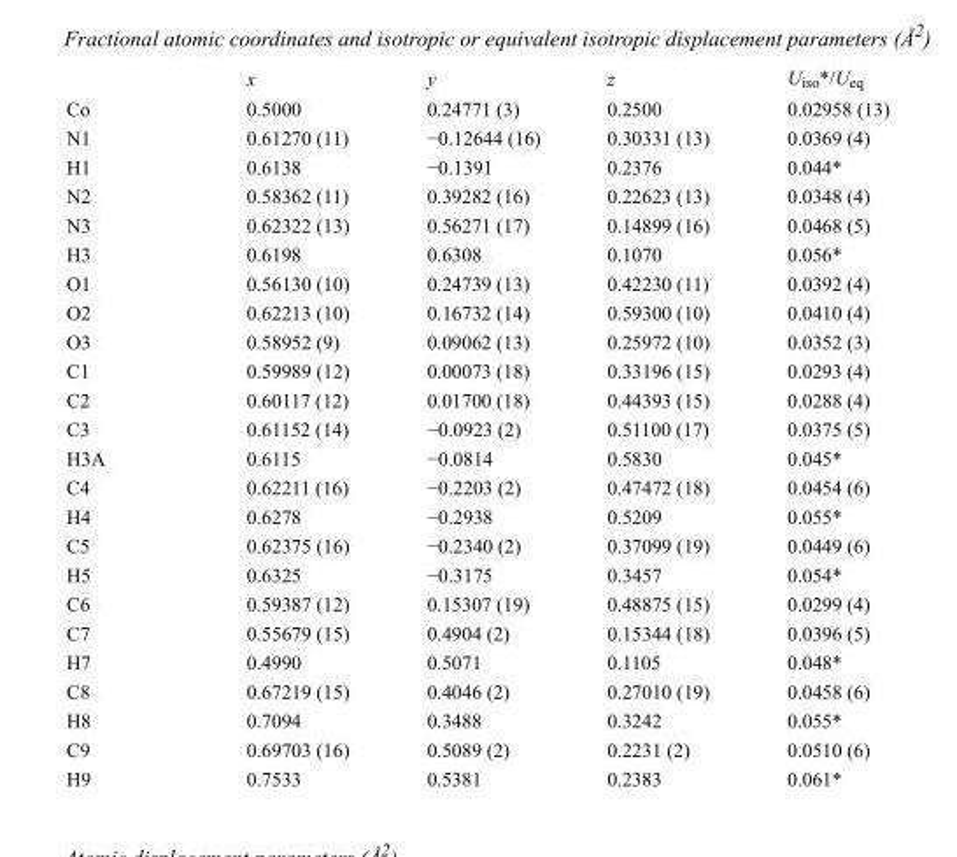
<table><thead><tr><td></td><td>x</td><td>y</td><td>z</td><td>U<sub>iso</sub>*/U<sub>eq</sub></td></tr></thead><tbody><tr><td>Co</td><td>0.5000</td><td>0.24771 (3)</td><td>0.2500</td><td>0.02958 (13)</td></tr><tr><td>N1</td><td>0.61270 (11)</td><td>−0.12644 (16)</td><td>0.30331 (13)</td><td>0.0369 (4)</td></tr><tr><td>H1</td><td>0.6138</td><td>−0.1391</td><td>0.2376</td><td>0.044*</td></tr><tr><td>N2</td><td>0.58362 (11)</td><td>0.39282 (16)</td><td>0.22623 (13)</td><td>0.0348 (4)</td></tr><tr><td>N3</td><td>0.62322 (13)</td><td>0.56271 (17)</td><td>0.14899 (16)</td><td>0.0468 (5)</td></tr><tr><td>H3</td><td>0.6198</td><td>0.6308</td><td>0.1070</td><td>0.056*</td></tr><tr><td>O1</td><td>0.56130 (10)</td><td>0.24739 (13)</td><td>0.42230 (11)</td><td>0.0392 (4)</td></tr><tr><td>O2</td><td>0.62213 (10)</td><td>0.16732 (14)</td><td>0.59300 (10)</td><td>0.0410 (4)</td></tr><tr><td>O3</td><td>0.58952 (9)</td><td>0.09062 (13)</td><td>0.25972 (10)</td><td>0.0352 (3)</td></tr><tr><td>C1</td><td>0.59989 (12)</td><td>0.00073 (18)</td><td>0.33196 (15)</td><td>0.0293 (4)</td></tr><tr><td>C2</td><td>0.60117 (12)</td><td>0.01700 (18)</td><td>0.44393 (15)</td><td>0.0288 (4)</td></tr><tr><td>C3</td><td>0.61152 (14)</td><td>−0.0923 (2)</td><td>0.51100 (17)</td><td>0.0375 (5)</td></tr><tr><td>H3A</td><td>0.6115</td><td>−0.0814</td><td>0.5830</td><td>0.045*</td></tr><tr><td>C4</td><td>0.62211 (16)</td><td>−0.2203 (2)</td><td>0.47472 (18)</td><td>0.0454 (6)</td></tr><tr><td>H4</td><td>0.6278</td><td>−0.2938</td><td>0.5209</td><td>0.055*</td></tr><tr><td>C5</td><td>0.62375 (16)</td><td>−0.2340 (2)</td><td>0.37099 (19)</td><td>0.0449 (6)</td></tr><tr><td>H5</td><td>0.6325</td><td>−0.3175</td><td>0.3457</td><td>0.054*</td></tr><tr><td>C6</td><td>0.59387 (12)</td><td>0.15307 (19)</td><td>0.48875 (15)</td><td>0.0299 (4)</td></tr><tr><td>C7</td><td>0.55679 (15)</td><td>0.4904 (2)</td><td>0.15344 (18)</td><td>0.0396 (5)</td></tr><tr><td>H7</td><td>0.4990</td><td>0.5071</td><td>0.1105</td><td>0.048*</td></tr><tr><td>C8</td><td>0.67219 (15)</td><td>0.4046 (2)</td><td>0.27010 (19)</td><td>0.0458 (6)</td></tr><tr><td>H8</td><td>0.7094</td><td>0.3488</td><td>0.3242</td><td>0.055*</td></tr><tr><td>C9</td><td>0.69703 (16)</td><td>0.5089 (2)</td><td>0.2231 (2)</td><td>0.0510 (6)</td></tr><tr><td>H9</td><td>0.7533</td><td>0.5381</td><td>0.2383</td><td>0.061*</td></tr></tbody></table>